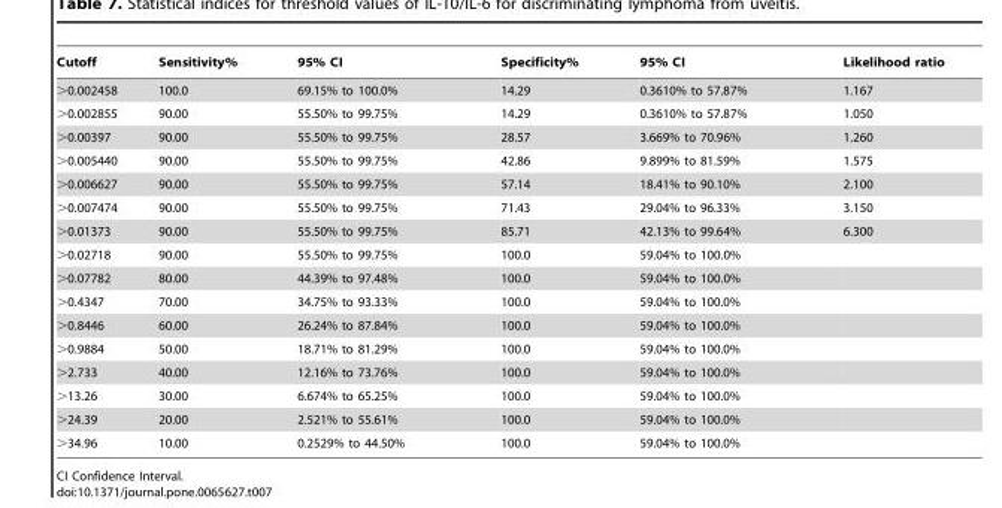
<table><thead><tr><td>Cutoff</td><td>Sensitivity%</td><td>95% CI</td><td>Specificity%</td><td>95% CI</td><td>Likelihood ratio</td></tr></thead><tbody><tr><td>&gt;0.002458</td><td>100.0</td><td>69.15% to 100.0%</td><td>14.29</td><td>0.3610% to 57.87%</td><td>1.167</td></tr><tr><td>&gt;0.002855</td><td>90.00</td><td>55.50% to 99.75%</td><td>14.29</td><td>0.3610% to 57.87%</td><td>1.050</td></tr><tr><td>&gt;0.00397</td><td>90.00</td><td>55.50% to 99.75%</td><td>28.57</td><td>3.669% to 70.96%</td><td>1.260</td></tr><tr><td>&gt;0.005440</td><td>90.00</td><td>55.50% to 99.75%</td><td>42.86</td><td>9.899% to 81.59%</td><td>1.575</td></tr><tr><td>&gt;0.006627</td><td>90.00</td><td>55.50% to 99.75%</td><td>57.14</td><td>18.41% to 90.10%</td><td>2.100</td></tr><tr><td>&gt;0.007474</td><td>90.00</td><td>55.50% to 99.75%</td><td>71.43</td><td>29.04% to 96.33%</td><td>3.150</td></tr><tr><td>&gt;0.01373</td><td>90.00</td><td>55.50% to 99.75%</td><td>85.71</td><td>42.13% to 99.64%</td><td>6.300</td></tr><tr><td>&gt;0.02718</td><td>90.00</td><td>55.50% to 99.75%</td><td>100.0</td><td>59.04% to 100.0%</td><td></td></tr><tr><td>&gt;0.07782</td><td>80.00</td><td>44.39% to 97.48%</td><td>100.0</td><td>59.04% to 100.0%</td><td></td></tr><tr><td>&gt;0.4347</td><td>70.00</td><td>34.75% to 93.33%</td><td>100.0</td><td>59.04% to 100.0%</td><td></td></tr><tr><td>&gt;0.8446</td><td>60.00</td><td>26.24% to 87.84%</td><td>100.0</td><td>59.04% to 100.0%</td><td></td></tr><tr><td>&gt;0.9884</td><td>50.00</td><td>18.71% to 81.29%</td><td>100.0</td><td>59.04% to 100.0%</td><td></td></tr><tr><td>&gt;2.733</td><td>40.00</td><td>12.16% to 73.76%</td><td>100.0</td><td>59.04% to 100.0%</td><td></td></tr><tr><td>&gt;13.26</td><td>30.00</td><td>6.674% to 65.25%</td><td>100.0</td><td>59.04% to 100.0%</td><td></td></tr><tr><td>&gt;24.39</td><td>20.00</td><td>2.521% to 55.61%</td><td>100.0</td><td>59.04% to 100.0%</td><td></td></tr><tr><td>&gt;34.96</td><td>10.00</td><td>0.2529% to 44.50%</td><td>100.0</td><td>59.04% to 100.0%</td><td></td></tr></tbody></table>